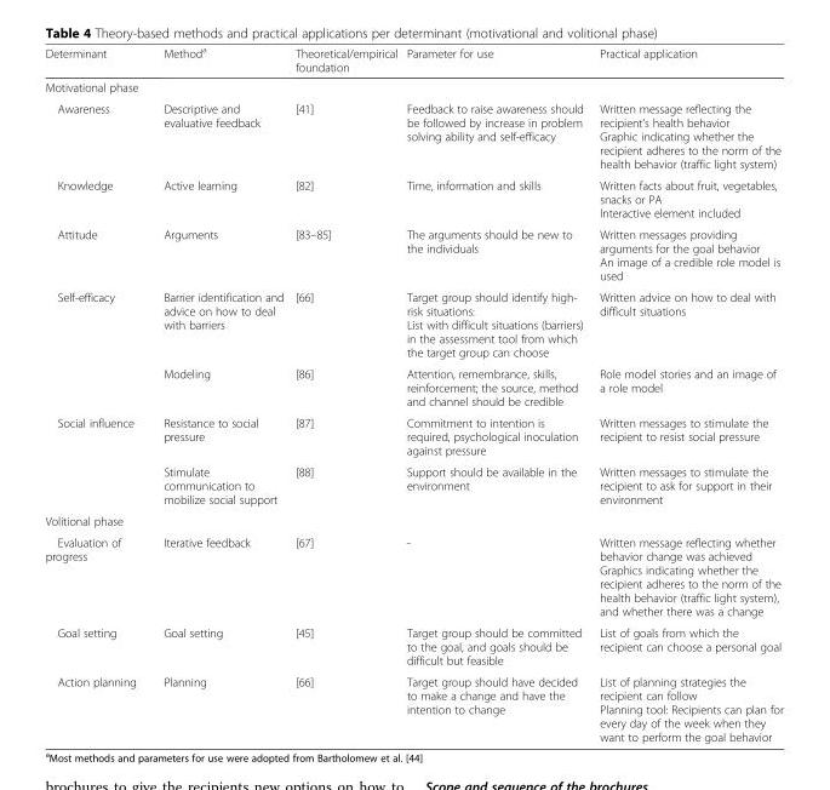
<table><thead><tr><td>Determinant</td><td>Method<sup>a</sup></td><td>Theoretical/empirical foundation</td><td>Parameter for use</td><td>Practical application</td></tr></thead><tbody><tr><td colspan="5">Motivational phase</td></tr><tr><td>Awareness</td><td>Descriptive and evaluative feedback</td><td>[41]</td><td>Feedback to raise awareness should be followed by increase in problem solving ability and self-efficacy</td><td>Written message reflecting the recipient’s health behavior Graphic indicating whether the recipient adheres to the norm of the health behavior (traffic light system)</td></tr><tr><td>Knowledge</td><td>Active learning</td><td>[82]</td><td>Time, information and skills</td><td>Written facts about fruit, vegetables, snacks or PA Interactive element included</td></tr><tr><td>Attitude</td><td>Arguments</td><td>[83–85]</td><td>The arguments should be new to the individuals</td><td>Written messages providing arguments for the goal behavior An image of a credible role model is used</td></tr><tr><td rowspan="2">Self-efficacy</td><td>Barrier identification and advice on how to deal with barriers</td><td>[66]</td><td>Target group should identify high- risk situations: List with difficult situations (barriers) in the assessment tool from which the target group can choose</td><td>Written advice on how to deal with difficult situations</td></tr><tr><td>Modeling</td><td>[86]</td><td>Attention, remembrance, skills, reinforcement; the source, method and channel should be credible</td><td>Role model stories and an image of a role model</td></tr><tr><td rowspan="2">Social influence</td><td>Resistance to social pressure</td><td>[87]</td><td>Commitment to intention is required, psychological inoculation against pressure</td><td>Written messages to stimulate the recipient to resist social pressure</td></tr><tr><td>Stimulate communication to mobilize social support</td><td>[88]</td><td>Support should be available in the environment</td><td>Written messages to stimulate the recipient to ask for support in their environment</td></tr><tr><td colspan="5">Volitional phase</td></tr><tr><td>Evaluation of progress</td><td>Iterative feedback</td><td>[67]</td><td>-</td><td>Written message reflecting whether behavior change was achieved Graphics indicating whether the recipient adheres to the norm of the health behavior (traffic light system), and whether there was a change</td></tr><tr><td>Goal setting</td><td>Goal setting</td><td>[45]</td><td>Target group should be committed to the goal, and goals should be difficult but feasible</td><td>List of goals from which the recipient can choose a personal goal</td></tr><tr><td>Action planning</td><td>Planning</td><td>[66]</td><td>Target group should have decided to make a change and have the intention to change</td><td>List of planning strategies the recipient can follow Planning tool: Recipients can plan for every day of the week when they want to perform the goal behavior</td></tr></tbody></table>